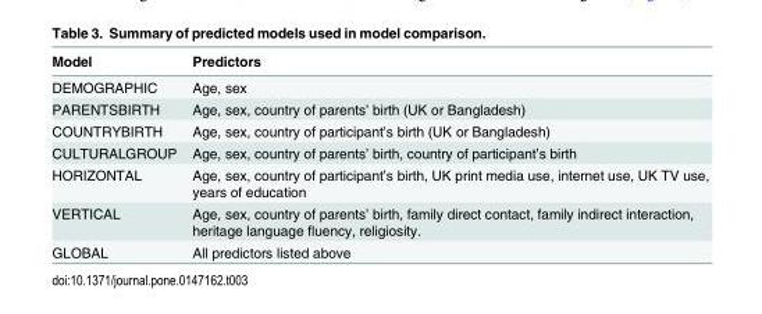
<table><thead><tr><td>Model</td><td>Predictors</td></tr></thead><tbody><tr><td>DEMOGRAPHIC</td><td>Age, sex</td></tr><tr><td>PARENTSBIRTH</td><td>Age, sex, country of parents’ birth (UK or Bangladesh)</td></tr><tr><td>COUNTRYBIRTH</td><td>Age, sex, country of participant’s birth (UK or Bangladesh)</td></tr><tr><td>CULTURALGROUP</td><td>Age, sex, country of parents’ birth, country of participant’s birth</td></tr><tr><td>HORIZONTAL</td><td>Age, sex, country of participant’s birth, UK print media use, internet use, UK TV use, years of education</td></tr><tr><td>VERTICAL</td><td>Age, sex, country of parents’ birth, family direct contact, family indirect interaction, heritage language fluency, religiosity.</td></tr><tr><td>GLOBAL</td><td>All predictors listed above</td></tr></tbody></table>